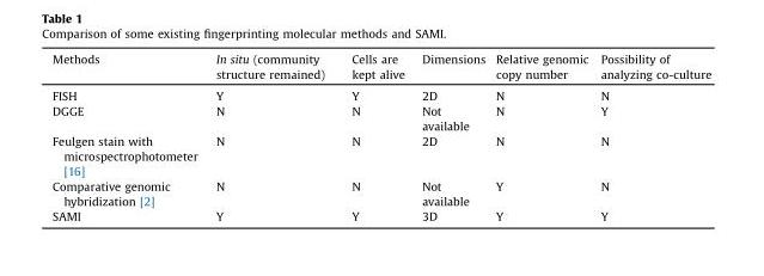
<table><thead><tr><td>Methods</td><td>In situ (community structure remained)</td><td>Cells are kept alive</td><td>Dimensions</td><td>Relative genomic copy number</td><td>Possibility of analyzing co-culture</td></tr></thead><tbody><tr><td>FISH</td><td>Y</td><td>Y</td><td>2D</td><td>N</td><td>N</td></tr><tr><td>DGGE</td><td>N</td><td>N</td><td>Not available</td><td>N</td><td>Y</td></tr><tr><td>Feulgen stain with microspectrophotometer [16]</td><td>N</td><td>N</td><td>2D</td><td>N</td><td>N</td></tr><tr><td>Comparative genomic hybridization [2]</td><td>N</td><td>N</td><td>Not available</td><td>Y</td><td>N</td></tr><tr><td>SAMI</td><td>Y</td><td>Y</td><td>3D</td><td>Y</td><td>Y</td></tr></tbody></table>